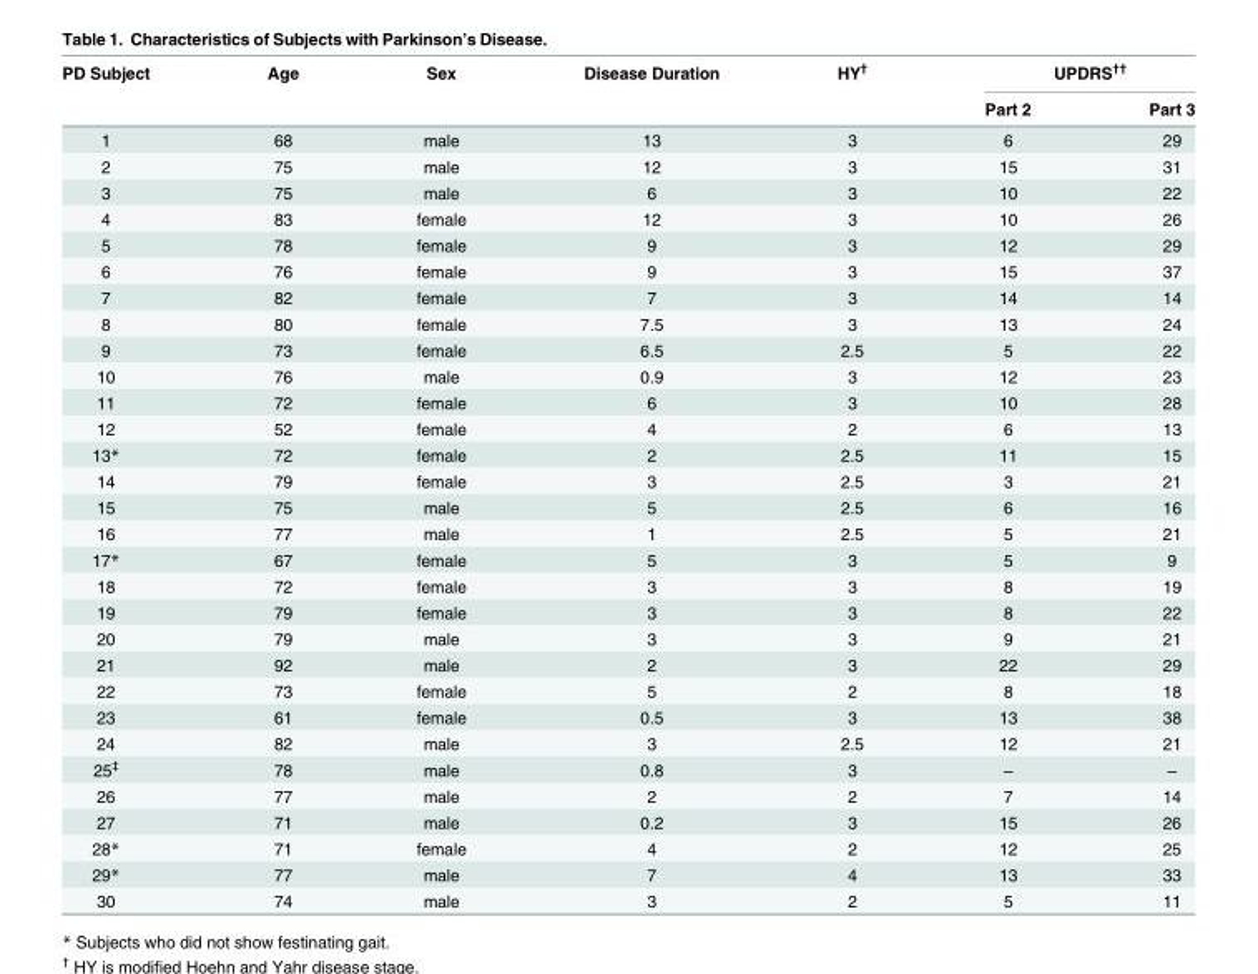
<table><thead><tr><td rowspan="2">PD Subject</td><td rowspan="2">Age</td><td rowspan="2">Sex</td><td rowspan="2">Disease Duration</td><td rowspan="2">HY<sup>†</sup></td><td colspan="2">UPDRS<sup>††</sup></td></tr><tr><td>Part 2</td><td>Part 3</td></tr></thead><tbody><tr><td>1</td><td>68</td><td>male</td><td>13</td><td>3</td><td>6</td><td>29</td></tr><tr><td>2</td><td>75</td><td>male</td><td>12</td><td>3</td><td>15</td><td>31</td></tr><tr><td>3</td><td>75</td><td>male</td><td>6</td><td>3</td><td>10</td><td>22</td></tr><tr><td>4</td><td>83</td><td>female</td><td>12</td><td>3</td><td>10</td><td>26</td></tr><tr><td>5</td><td>78</td><td>female</td><td>9</td><td>3</td><td>12</td><td>29</td></tr><tr><td>6</td><td>76</td><td>female</td><td>9</td><td>3</td><td>15</td><td>37</td></tr><tr><td>7</td><td>82</td><td>female</td><td>7</td><td>3</td><td>14</td><td>14</td></tr><tr><td>8</td><td>80</td><td>female</td><td>7.5</td><td>3</td><td>13</td><td>24</td></tr><tr><td>9</td><td>73</td><td>female</td><td>6.5</td><td>2.5</td><td>5</td><td>22</td></tr><tr><td>10</td><td>76</td><td>male</td><td>0.9</td><td>3</td><td>12</td><td>23</td></tr><tr><td>11</td><td>72</td><td>female</td><td>6</td><td>3</td><td>10</td><td>28</td></tr><tr><td>12</td><td>52</td><td>female</td><td>4</td><td>2</td><td>6</td><td>13</td></tr><tr><td>13*</td><td>72</td><td>female</td><td>2</td><td>2.5</td><td>11</td><td>15</td></tr><tr><td>14</td><td>79</td><td>female</td><td>3</td><td>2.5</td><td>3</td><td>21</td></tr><tr><td>15</td><td>75</td><td>male</td><td>5</td><td>2.5</td><td>6</td><td>16</td></tr><tr><td>16</td><td>77</td><td>male</td><td>1</td><td>2.5</td><td>5</td><td>21</td></tr><tr><td>17*</td><td>67</td><td>female</td><td>5</td><td>3</td><td>5</td><td>9</td></tr><tr><td>18</td><td>72</td><td>female</td><td>3</td><td>3</td><td>8</td><td>19</td></tr><tr><td>19</td><td>79</td><td>female</td><td>3</td><td>3</td><td>8</td><td>22</td></tr><tr><td>20</td><td>79</td><td>male</td><td>3</td><td>3</td><td>9</td><td>21</td></tr><tr><td>21</td><td>92</td><td>male</td><td>2</td><td>3</td><td>22</td><td>29</td></tr><tr><td>22</td><td>73</td><td>female</td><td>5</td><td>2</td><td>8</td><td>18</td></tr><tr><td>23</td><td>61</td><td>female</td><td>0.5</td><td>3</td><td>13</td><td>38</td></tr><tr><td>24</td><td>82</td><td>male</td><td>3</td><td>2.5</td><td>12</td><td>21</td></tr><tr><td>25<sup>‡</sup></td><td>78</td><td>male</td><td>0.8</td><td>3</td><td>–</td><td>–</td></tr><tr><td>26</td><td>77</td><td>male</td><td>2</td><td>2</td><td>7</td><td>14</td></tr><tr><td>27</td><td>71</td><td>male</td><td>0.2</td><td>3</td><td>15</td><td>26</td></tr><tr><td>28*</td><td>71</td><td>female</td><td>4</td><td>2</td><td>12</td><td>25</td></tr><tr><td>29*</td><td>77</td><td>male</td><td>7</td><td>4</td><td>13</td><td>33</td></tr><tr><td>30</td><td>74</td><td>male</td><td>3</td><td>2</td><td>5</td><td>11</td></tr></tbody></table>